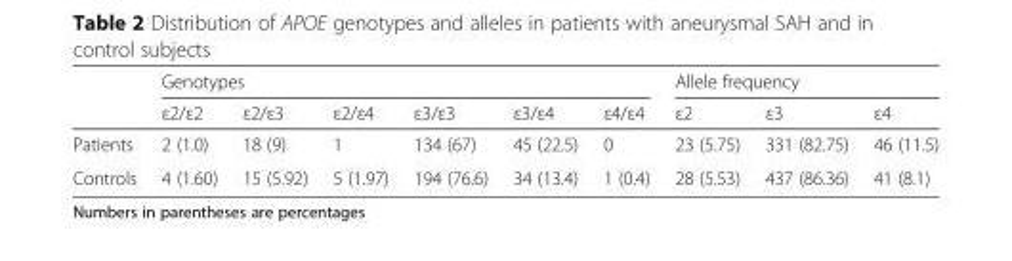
<table><thead><tr><td rowspan="2"></td><td colspan="6">Genotypes</td><td colspan="3">Allele frequency</td></tr><tr><td>ε2/ε2</td><td>ε2/ε3</td><td>ε2/ε4</td><td>ε3/ε3</td><td>ε3/ε4</td><td>ε4/ε4</td><td>ε2</td><td>ε3</td><td>ε4</td></tr></thead><tbody><tr><td>Patients</td><td>2 (1.0)</td><td>18 (9)</td><td>1</td><td>134 (67)</td><td>45 (22.5)</td><td>0</td><td>23 (5.75)</td><td>331 (82.75)</td><td>46 (11.5)</td></tr><tr><td>Controls</td><td>4 (1.60)</td><td>15 (5.92)</td><td>5 (1.97)</td><td>194 (76.6)</td><td>34 (13.4)</td><td>1 (0.4)</td><td>28 (5.53)</td><td>437 (86.36)</td><td>41 (8.1)</td></tr></tbody></table>